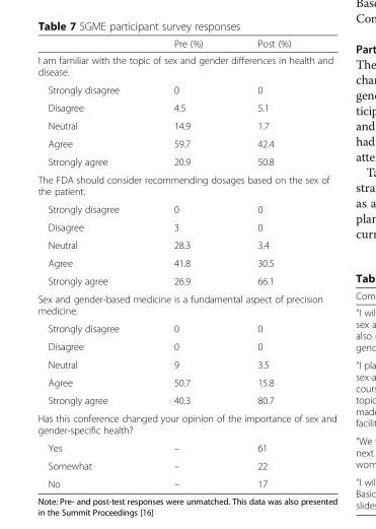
<table><thead><tr><td></td><td>Pre (%)</td><td>Post (%)</td></tr></thead><tbody><tr><td colspan="3">I am familiar with the topic of sex and gender differences in health and disease.</td></tr><tr><td>Strongly disagree</td><td>0</td><td>0</td></tr><tr><td>Disagree</td><td>4.5</td><td>5.1</td></tr><tr><td>Neutral</td><td>14.9</td><td>1.7</td></tr><tr><td>Agree</td><td>59.7</td><td>42.4</td></tr><tr><td>Strongly agree</td><td>20.9</td><td>50.8</td></tr><tr><td colspan="3">The FDA should consider recommending dosages based on the sex of the patient.</td></tr><tr><td>Strongly disagree</td><td>0</td><td>0</td></tr><tr><td>Disagree</td><td>3</td><td>0</td></tr><tr><td>Neutral</td><td>28.3</td><td>3.4</td></tr><tr><td>Agree</td><td>41.8</td><td>30.5</td></tr><tr><td>Strongly agree</td><td>26.9</td><td>66.1</td></tr><tr><td colspan="3">Sex and gender-based medicine is a fundamental aspect of precision medicine.</td></tr><tr><td>Strongly disagree</td><td>0</td><td>0</td></tr><tr><td>Disagree</td><td>0</td><td>0</td></tr><tr><td>Neutral</td><td>9</td><td>3.5</td></tr><tr><td>Agree</td><td>50.7</td><td>15.8</td></tr><tr><td>Strongly agree</td><td>40.3</td><td>80.7</td></tr><tr><td colspan="3">Has this conference changed your opinion of the importance of sex and gender-specific health?</td></tr><tr><td>Yes</td><td>–</td><td>61</td></tr><tr><td>Somewhat</td><td>–</td><td>22</td></tr><tr><td>No</td><td>–</td><td>17</td></tr></tbody></table>